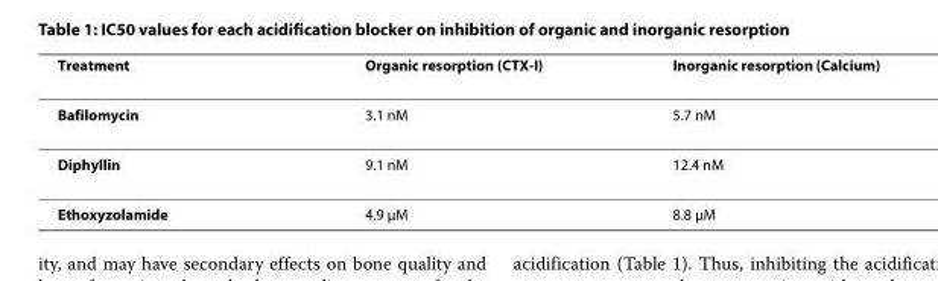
<table><thead><tr><td>Treatment</td><td>Organic resorption (CTX-I)</td><td>Inorganic resorption (Calcium)</td></tr></thead><tbody><tr><td>Bafilomycin</td><td>3.1 nM</td><td>5.7 nM</td></tr><tr><td>Diphyllin</td><td>9.1 nM</td><td>12.4 nM</td></tr><tr><td>Ethoxyzolamide</td><td>4.9 μM</td><td>8.8 μM</td></tr></tbody></table>